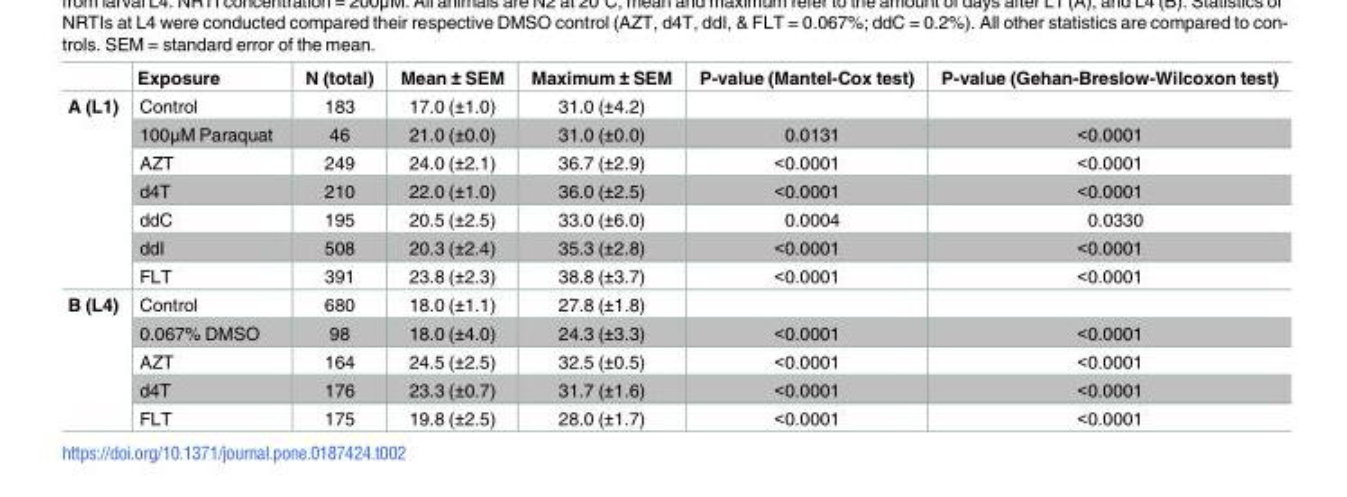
<table><thead><tr><td></td><td>Exposure</td><td>N (total)</td><td>Mean ± SEM</td><td>Maximum ± SEM</td><td>P-value (Mantel-Cox test)</td><td>P-value (Gehan-Breslow-Wilcoxon test)</td></tr></thead><tbody><tr><td rowspan="7">A (L1)</td><td>Control</td><td>183</td><td>17.0 (±1.0)</td><td>31.0 (±4.2)</td><td></td><td></td></tr><tr><td>100μM Paraquat</td><td>46</td><td>21.0 (±0.0)</td><td>31.0 (±0.0)</td><td>0.0131</td><td>&lt;0.0001</td></tr><tr><td>AZT</td><td>249</td><td>24.0 (±2.1)</td><td>36.7 (±2.9)</td><td>&lt;0.0001</td><td>&lt;0.0001</td></tr><tr><td>d4T</td><td>210</td><td>22.0 (±1.0)</td><td>36.0 (±2.5)</td><td>&lt;0.0001</td><td>&lt;0.0001</td></tr><tr><td>ddC</td><td>195</td><td>20.5 (±2.5)</td><td>33.0 (±6.0)</td><td>0.0004</td><td>0.0330</td></tr><tr><td>ddI</td><td>508</td><td>20.3 (±2.4)</td><td>35.3 (±2.8)</td><td>&lt;0.0001</td><td>&lt;0.0001</td></tr><tr><td>FLT</td><td>391</td><td>23.8 (±2.3)</td><td>38.8 (±3.7)</td><td>&lt;0.0001</td><td>&lt;0.0001</td></tr><tr><td rowspan="5">B (L4)</td><td>Control</td><td>680</td><td>18.0 (±1.1)</td><td>27.8 (±1.8)</td><td></td><td></td></tr><tr><td>0.067% DMSO</td><td>98</td><td>18.0 (±4.0)</td><td>24.3 (±3.3)</td><td>&lt;0.0001</td><td>&lt;0.0001</td></tr><tr><td>AZT</td><td>164</td><td>24.5 (±2.5)</td><td>32.5 (±0.5)</td><td>&lt;0.0001</td><td>&lt;0.0001</td></tr><tr><td>d4T</td><td>176</td><td>23.3 (±0.7)</td><td>31.7 (±1.6)</td><td>&lt;0.0001</td><td>&lt;0.0001</td></tr><tr><td>FLT</td><td>175</td><td>19.8 (±2.5)</td><td>28.0 (±1.7)</td><td>&lt;0.0001</td><td>&lt;0.0001</td></tr></tbody></table>